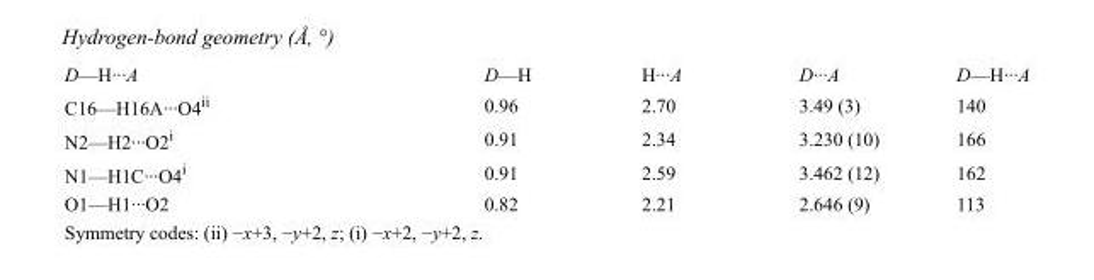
<table><tbody><tr><td>D—H···A</td><td>D—H</td><td>H···A</td><td>D···A</td><td>D—H···A</td></tr><tr><td>C16—H16A···O4<sup>ii</sup></td><td>0.96</td><td>2.70</td><td>3.49 (3)</td><td>140</td></tr><tr><td>N2—H2···O2<sup>i</sup></td><td>0.91</td><td>2.34</td><td>3.230 (10)</td><td>166</td></tr><tr><td>N1—H1C···O4<sup>i</sup></td><td>0.91</td><td>2.59</td><td>3.462 (12)</td><td>162</td></tr><tr><td>O1—H1···O2</td><td>0.82</td><td>2.21</td><td>2.646 (9)</td><td>113</td></tr></tbody></table>